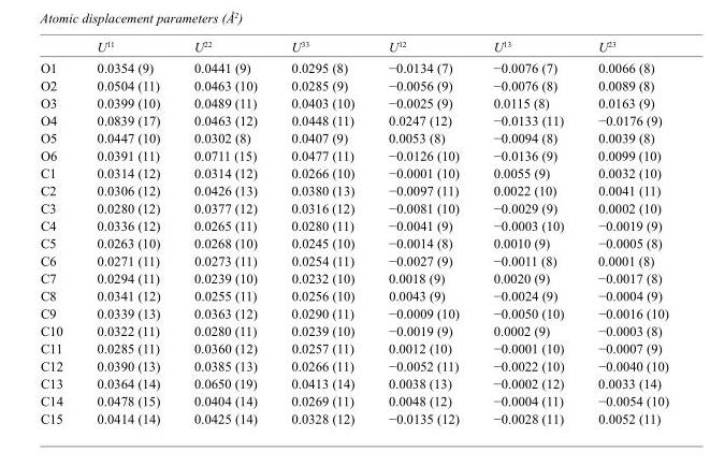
<table><thead><tr><td></td><td>U<sup>11</sup></td><td>U<sup>22</sup></td><td>U<sup>33</sup></td><td>U<sup>12</sup></td><td>U<sup>13</sup></td><td>U<sup>23</sup></td></tr></thead><tbody><tr><td>O1</td><td>0.0354 (9)</td><td>0.0441 (9)</td><td>0.0295 (8)</td><td>−0.0134 (7)</td><td>−0.0076 (7)</td><td>0.0066 (8)</td></tr><tr><td>O2</td><td>0.0504 (11)</td><td>0.0463 (10)</td><td>0.0285 (9)</td><td>−0.0056 (9)</td><td>−0.0076 (8)</td><td>0.0089 (8)</td></tr><tr><td>O3</td><td>0.0399 (10)</td><td>0.0489 (11)</td><td>0.0403 (10)</td><td>−0.0025 (9)</td><td>0.0115 (8)</td><td>0.0163 (9)</td></tr><tr><td>O4</td><td>0.0839 (17)</td><td>0.0463 (12)</td><td>0.0448 (11)</td><td>0.0247 (12)</td><td>−0.0133 (11)</td><td>−0.0176 (9)</td></tr><tr><td>O5</td><td>0.0447 (10)</td><td>0.0302 (8)</td><td>0.0407 (9)</td><td>0.0053 (8)</td><td>−0.0094 (8)</td><td>0.0039 (8)</td></tr><tr><td>O6</td><td>0.0391 (11)</td><td>0.0711 (15)</td><td>0.0477 (11)</td><td>−0.0126 (10)</td><td>−0.0136 (9)</td><td>0.0099 (10)</td></tr><tr><td>C1</td><td>0.0314 (12)</td><td>0.0314 (12)</td><td>0.0266 (10)</td><td>−0.0001 (10)</td><td>0.0055 (9)</td><td>0.0032 (10)</td></tr><tr><td>C2</td><td>0.0306 (12)</td><td>0.0426 (13)</td><td>0.0380 (13)</td><td>−0.0097 (11)</td><td>0.0022 (10)</td><td>0.0041 (11)</td></tr><tr><td>C3</td><td>0.0280 (12)</td><td>0.0377 (12)</td><td>0.0316 (12)</td><td>−0.0081 (10)</td><td>−0.0029 (9)</td><td>0.0002 (10)</td></tr><tr><td>C4</td><td>0.0336 (12)</td><td>0.0265 (11)</td><td>0.0280 (11)</td><td>−0.0041 (9)</td><td>−0.0003 (10)</td><td>−0.0019 (9)</td></tr><tr><td>C5</td><td>0.0263 (10)</td><td>0.0268 (10)</td><td>0.0245 (10)</td><td>−0.0014 (8)</td><td>0.0010 (9)</td><td>−0.0005 (8)</td></tr><tr><td>C6</td><td>0.0271 (11)</td><td>0.0273 (11)</td><td>0.0254 (11)</td><td>−0.0027 (9)</td><td>−0.0011 (8)</td><td>0.0001 (8)</td></tr><tr><td>C7</td><td>0.0294 (11)</td><td>0.0239 (10)</td><td>0.0232 (10)</td><td>0.0018 (9)</td><td>0.0020 (9)</td><td>−0.0017 (8)</td></tr><tr><td>C8</td><td>0.0341 (12)</td><td>0.0255 (11)</td><td>0.0256 (10)</td><td>0.0043 (9)</td><td>−0.0024 (9)</td><td>−0.0004 (9)</td></tr><tr><td>C9</td><td>0.0339 (13)</td><td>0.0363 (12)</td><td>0.0290 (11)</td><td>−0.0009 (10)</td><td>−0.0050 (10)</td><td>−0.0016 (10)</td></tr><tr><td>C10</td><td>0.0322 (11)</td><td>0.0280 (11)</td><td>0.0239 (10)</td><td>−0.0019 (9)</td><td>0.0002 (9)</td><td>−0.0003 (8)</td></tr><tr><td>C11</td><td>0.0285 (11)</td><td>0.0360 (12)</td><td>0.0257 (11)</td><td>0.0012 (10)</td><td>−0.0001 (10)</td><td>−0.0007 (9)</td></tr><tr><td>C12</td><td>0.0390 (13)</td><td>0.0385 (13)</td><td>0.0266 (11)</td><td>−0.0052 (11)</td><td>−0.0022 (10)</td><td>−0.0040 (10)</td></tr><tr><td>C13</td><td>0.0364 (14)</td><td>0.0650 (19)</td><td>0.0413 (14)</td><td>0.0038 (13)</td><td>−0.0002 (12)</td><td>0.0033 (14)</td></tr><tr><td>C14</td><td>0.0478 (15)</td><td>0.0404 (14)</td><td>0.0269 (11)</td><td>0.0048 (12)</td><td>−0.0004 (11)</td><td>−0.0054 (10)</td></tr><tr><td>C15</td><td>0.0414 (14)</td><td>0.0425 (14)</td><td>0.0328 (12)</td><td>−0.0135 (12)</td><td>−0.0028 (11)</td><td>0.0052 (11)</td></tr></tbody></table>